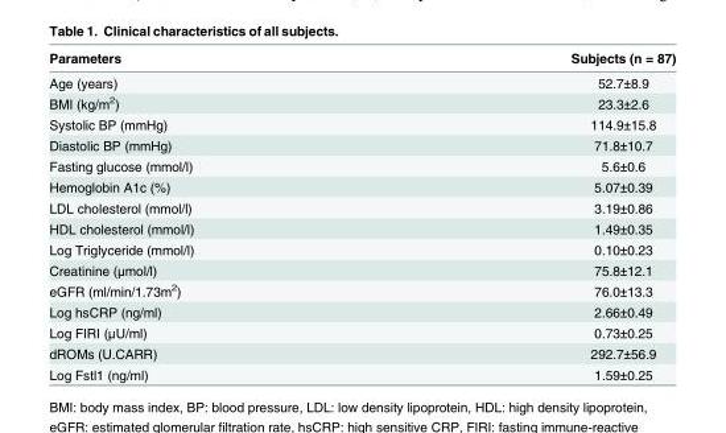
<table><thead><tr><td>Parameters</td><td>Subjects (n = 87)</td></tr></thead><tbody><tr><td>Age (years)</td><td>52.7±8.9</td></tr><tr><td>BMI (kg/m<sup>2</sup>)</td><td>23.3±2.6</td></tr><tr><td>Systolic BP (mmHg)</td><td>114.9±15.8</td></tr><tr><td>Diastolic BP (mmHg)</td><td>71.8±10.7</td></tr><tr><td>Fasting glucose (mmol/l)</td><td>5.6±0.6</td></tr><tr><td>Hemoglobin A1c (%)</td><td>5.07±0.39</td></tr><tr><td>LDL cholesterol (mmol/l)</td><td>3.19±0.86</td></tr><tr><td>HDL cholesterol (mmol/l)</td><td>1.49±0.35</td></tr><tr><td>Log Triglyceride (mmol/l)</td><td>0.10±0.23</td></tr><tr><td>Creatinine (μmol/l)</td><td>75.8±12.1</td></tr><tr><td>eGFR (ml/min/1.73m<sup>2</sup>)</td><td>76.0±13.3</td></tr><tr><td>Log hsCRP (ng/ml)</td><td>2.66±0.49</td></tr><tr><td>Log FIRI (μU/ml)</td><td>0.73±0.25</td></tr><tr><td>dROMs (U.CARR)</td><td>292.7±56.9</td></tr><tr><td>Log Fstl1 (ng/ml)</td><td>1.59±0.25</td></tr></tbody></table>